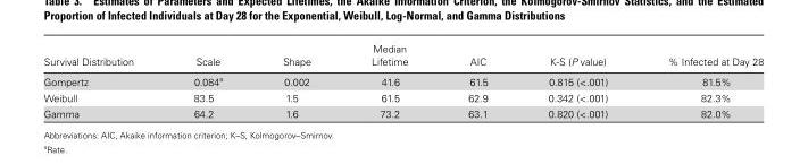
<table><thead><tr><td>Survival Distribution</td><td>Scale</td><td>Shape</td><td>Median Lifetime</td><td>AIC</td><td>K-S (P value)</td><td>% Infected at Day 28</td></tr></thead><tbody><tr><td>Gompertz</td><td>0.084<sup>a</sup></td><td>0.002</td><td>41.6</td><td>61.5</td><td>0.815 (&lt;.001)</td><td>81.5%</td></tr><tr><td>Weibull</td><td>83.5</td><td>1.5</td><td>61.5</td><td>62.9</td><td>0.342 (&lt;.001)</td><td>82.3%</td></tr><tr><td>Gamma</td><td>64.2</td><td>1.6</td><td>73.2</td><td>63.1</td><td>0.820 (&lt;.001)</td><td>82.0%</td></tr></tbody></table>